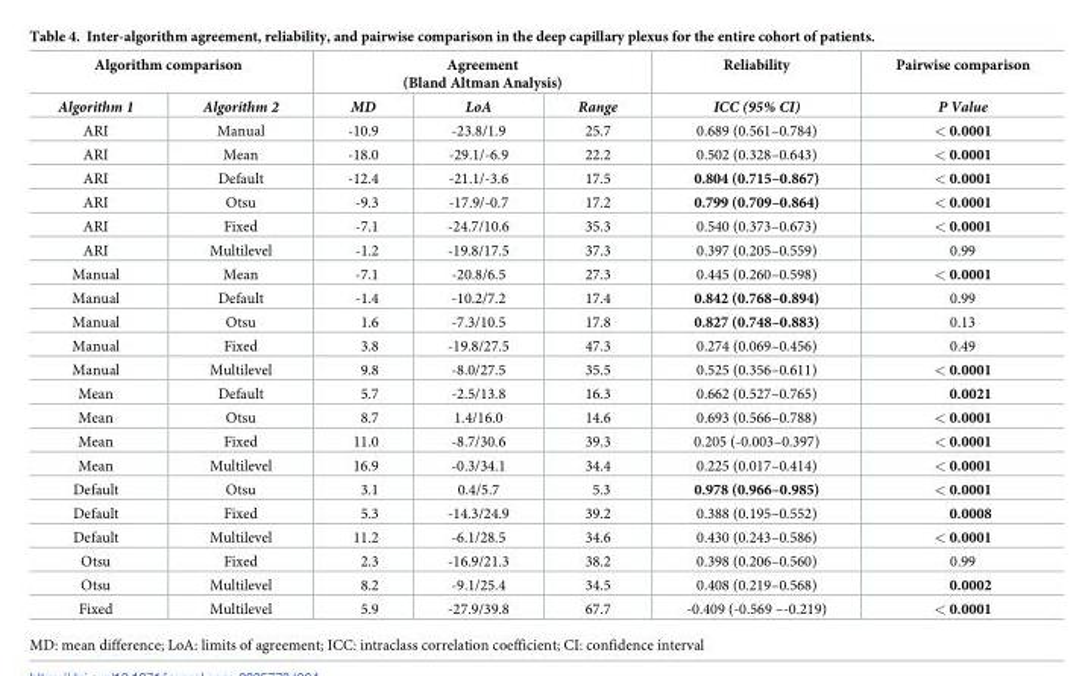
<table><thead><tr><td colspan="2">Algorithm comparison</td><td colspan="3">Agreement (Bland Altman Analysis)</td><td rowspan="2">Reliability ICC (95% CI)</td><td rowspan="2">Pairwise comparison P Value</td></tr><tr><td>Algorithm 1</td><td>Algorithm 2</td><td>MD</td><td>LoA</td><td>Range</td></tr></thead><tbody><tr><td>ARI</td><td>Manual</td><td>-10.9</td><td>-23.8/1.9</td><td>25.7</td><td>0.689 (0.561–0.784)</td><td>&lt; 0.0001</td></tr><tr><td>ARI</td><td>Mean</td><td>-18.0</td><td>-29.1/-6.9</td><td>22.2</td><td>0.502 (0.328–0.643)</td><td>&lt; 0.0001</td></tr><tr><td>ARI</td><td>Default</td><td>-12.4</td><td>-21.1/-3.6</td><td>17.5</td><td>0.804 (0.715–0.867)</td><td>&lt; 0.0001</td></tr><tr><td>ARI</td><td>Otsu</td><td>-9.3</td><td>-17.9/-0.7</td><td>17.2</td><td>0.799 (0.709–0.864)</td><td>&lt; 0.0001</td></tr><tr><td>ARI</td><td>Fixed</td><td>-7.1</td><td>-24.7/10.6</td><td>35.3</td><td>0.540 (0.373–0.673)</td><td>&lt; 0.0001</td></tr><tr><td>ARI</td><td>Multilevel</td><td>-1.2</td><td>-19.8/17.5</td><td>37.3</td><td>0.397 (0.205–0.559)</td><td>0.99</td></tr><tr><td>Manual</td><td>Mean</td><td>-7.1</td><td>-20.8/6.5</td><td>27.3</td><td>0.445 (0.260–0.598)</td><td>&lt; 0.0001</td></tr><tr><td>Manual</td><td>Default</td><td>-1.4</td><td>-10.2/7.2</td><td>17.4</td><td>0.842 (0.768–0.894)</td><td>0.99</td></tr><tr><td>Manual</td><td>Otsu</td><td>1.6</td><td>-7.3/10.5</td><td>17.8</td><td>0.827 (0.748–0.883)</td><td>0.13</td></tr><tr><td>Manual</td><td>Fixed</td><td>3.8</td><td>-19.8/27.5</td><td>47.3</td><td>0.274 (0.069–0.456)</td><td>0.49</td></tr><tr><td>Manual</td><td>Multilevel</td><td>9.8</td><td>-8.0/27.5</td><td>35.5</td><td>0.525 (0.356–0.611)</td><td>&lt; 0.0001</td></tr><tr><td>Mean</td><td>Default</td><td>5.7</td><td>-2.5/13.8</td><td>16.3</td><td>0.662 (0.527–0.765)</td><td>0.0021</td></tr><tr><td>Mean</td><td>Otsu</td><td>8.7</td><td>1.4/16.0</td><td>14.6</td><td>0.693 (0.566–0.788)</td><td>&lt; 0.0001</td></tr><tr><td>Mean</td><td>Fixed</td><td>11.0</td><td>-8.7/30.6</td><td>39.3</td><td>0.205 (-0.003–0.397)</td><td>&lt; 0.0001</td></tr><tr><td>Mean</td><td>Multilevel</td><td>16.9</td><td>-0.3/34.1</td><td>34.4</td><td>0.225 (0.017–0.414)</td><td>&lt; 0.0001</td></tr><tr><td>Default</td><td>Otsu</td><td>3.1</td><td>0.4/5.7</td><td>5.3</td><td>0.978 (0.966–0.985)</td><td>&lt; 0.0001</td></tr><tr><td>Default</td><td>Fixed</td><td>5.3</td><td>-14.3/24.9</td><td>39.2</td><td>0.388 (0.195–0.552)</td><td>0.0008</td></tr><tr><td>Default</td><td>Multilevel</td><td>11.2</td><td>-6.1/28.5</td><td>34.6</td><td>0.430 (0.243–0.586)</td><td>&lt; 0.0001</td></tr><tr><td>Otsu</td><td>Fixed</td><td>2.3</td><td>-16.9/21.3</td><td>38.2</td><td>0.398 (0.206–0.560)</td><td>0.99</td></tr><tr><td>Otsu</td><td>Multilevel</td><td>8.2</td><td>-9.1/25.4</td><td>34.5</td><td>0.408 (0.219–0.568)</td><td>0.0002</td></tr><tr><td>Fixed</td><td>Multilevel</td><td>5.9</td><td>-27.9/39.8</td><td>67.7</td><td>-0.409 (-0.569 –-0.219)</td><td>&lt; 0.0001</td></tr></tbody></table>